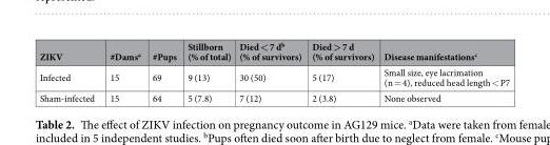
<table><thead><tr><td>ZIKV</td><td>#Dams<sup>a</sup></td><td>#Pups</td><td>Stillborn (% of total)</td><td>Died &lt; 7 d<sup>b</sup> (% of survivors)</td><td>Died &gt; 7 d (% of survivors)</td><td>Disease manifestations<sup>c</sup></td></tr></thead><tbody><tr><td>Infected</td><td>15</td><td>69</td><td>9 (13)</td><td>30 (50)</td><td>5 (17)</td><td>Small size, eye lacrimation (n = 4), reduced head length &lt; P7</td></tr><tr><td>Sham-infected</td><td>15</td><td>64</td><td>5 (7.8)</td><td>7 (12)</td><td>2 (3.8)</td><td>None observed</td></tr></tbody></table>